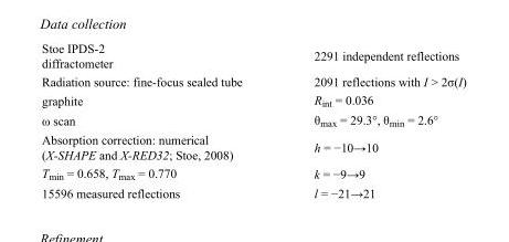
<table><tbody><tr><td>Stoe IPDS-2 diffractometer</td><td>2291 independent reflections</td></tr><tr><td>Radiation source: fine-focus sealed tube</td><td>2091 reflections with I &gt; 2σ(I)</td></tr><tr><td>graphite</td><td>R<sub>int</sub> = 0.036</td></tr><tr><td>ω scan</td><td>θ<sub>max</sub> = 29.3°, θ<sub>min</sub> = 2.6°</td></tr><tr><td>Absorption correction: numerical (X-SHAPE and X-RED32; Stoe, 2008)</td><td>h = −10→10</td></tr><tr><td>T<sub>min</sub> = 0.658, T<sub>max</sub> = 0.770</td><td>k = −9→9</td></tr><tr><td>15596 measured reflections</td><td>l = −21→21</td></tr></tbody></table>